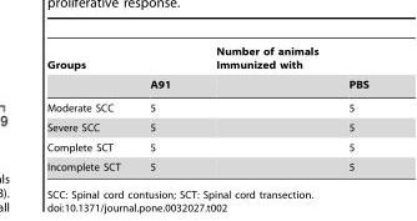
<table><thead><tr><td rowspan="2">Groups</td><td rowspan="2">A91</td><td rowspan="2">Number of animals Immunized with</td><td rowspan="2">PBS</td></tr><tr></tr></thead><tbody><tr><td>Moderate SCC</td><td>5</td><td></td><td>5</td></tr><tr><td>Severe SCC</td><td>5</td><td></td><td>5</td></tr><tr><td>Complete SCT</td><td>5</td><td></td><td>5</td></tr><tr><td>Incomplete SCT</td><td>5</td><td></td><td>5</td></tr></tbody></table>